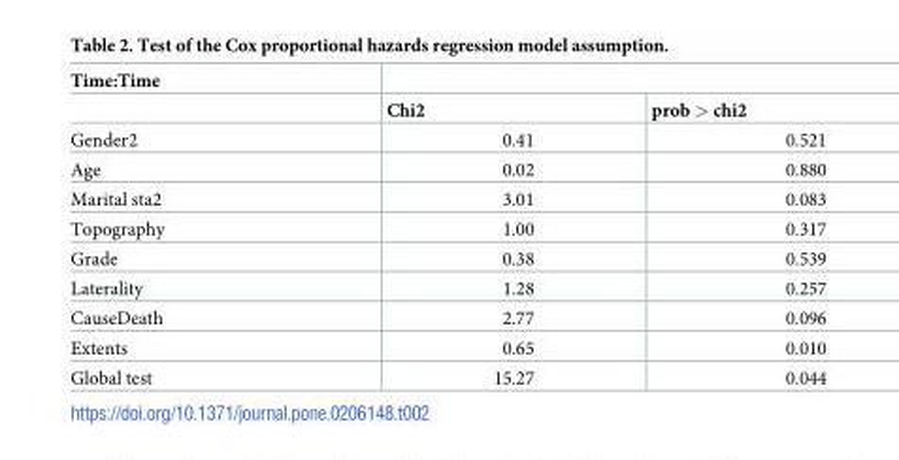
<table><thead><tr><td rowspan="2">Time:Time</td><td rowspan="2">Chi2</td><td rowspan="2">prob &gt; chi2</td></tr><tr></tr></thead><tbody><tr><td>Gender2</td><td>0.41</td><td>0.521</td></tr><tr><td>Age</td><td>0.02</td><td>0.880</td></tr><tr><td>Marital sta2</td><td>3.01</td><td>0.083</td></tr><tr><td>Topography</td><td>1.00</td><td>0.317</td></tr><tr><td>Grade</td><td>0.38</td><td>0.539</td></tr><tr><td>Laterality</td><td>1.28</td><td>0.257</td></tr><tr><td>CauseDeath</td><td>2.77</td><td>0.096</td></tr><tr><td>Extents</td><td>0.65</td><td>0.010</td></tr><tr><td>Global test</td><td>15.27</td><td>0.044</td></tr></tbody></table>